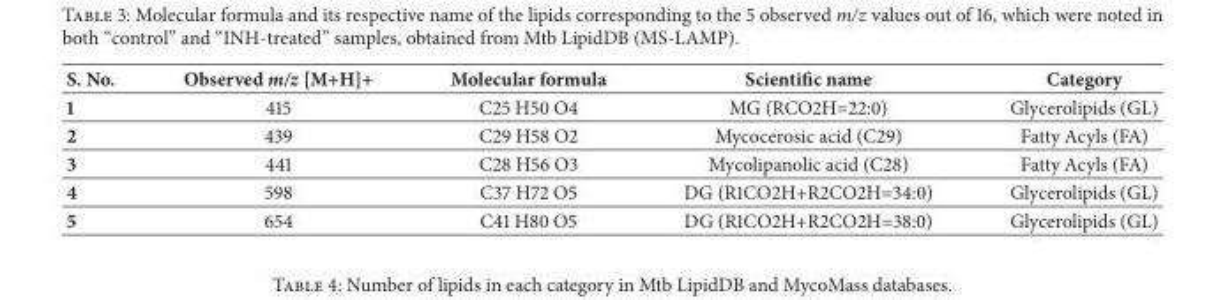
<table><thead><tr><td>S. No.</td><td>Observed m/z [M+H]+</td><td>Molecular formula</td><td>Scientific name</td><td>Category</td></tr></thead><tbody><tr><td>1</td><td>415</td><td>C25 H50 O4</td><td>MG (RCO2H=22:0)</td><td>Glycerolipids (GL)</td></tr><tr><td>2</td><td>439</td><td>C29 H58 O2</td><td>Mycocerosic acid (C29)</td><td>Fatty Acyls (FA)</td></tr><tr><td>3</td><td>441</td><td>C28 H56 O3</td><td>Mycolipanolic acid (C28)</td><td>Fatty Acyls (FA)</td></tr><tr><td>4</td><td>598</td><td>C37 H72 O5</td><td>DG (R1CO2H+R2CO2H=34:0)</td><td>Glycerolipids (GL)</td></tr><tr><td>5</td><td>654</td><td>C41 H80 O5</td><td>DG (R1CO2H+R2CO2H=38:0)</td><td>Glycerolipids (GL)</td></tr></tbody></table>